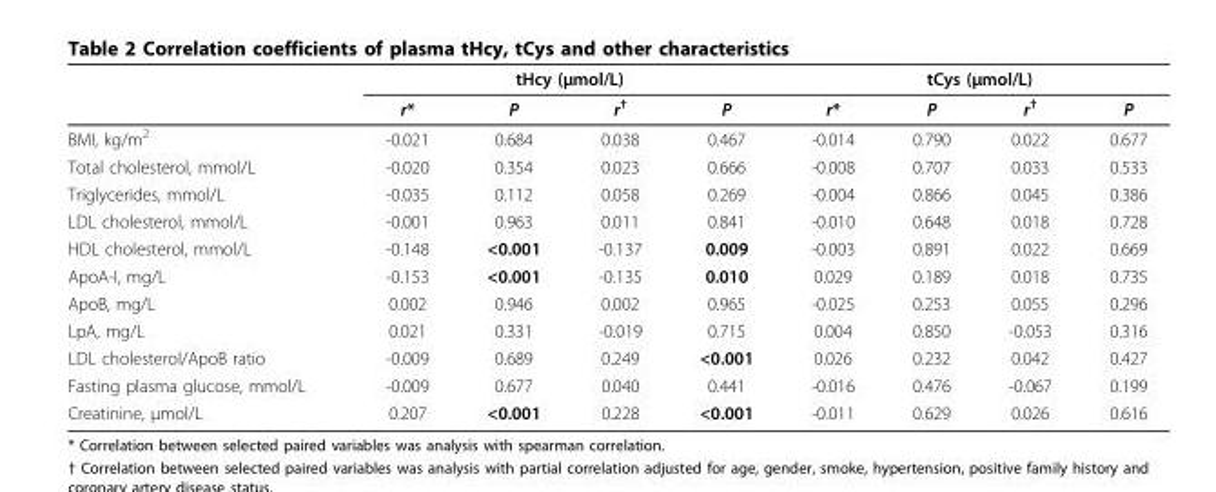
<table><thead><tr><td rowspan="2"></td><td colspan="4">tHcy (μmol/L)</td><td colspan="4">tCys (μmol/L)</td></tr><tr><td>r*</td><td>P</td><td>r<sup>†</sup></td><td>P</td><td>r*</td><td>P</td><td>r<sup>†</sup></td><td>P</td></tr></thead><tbody><tr><td>BMI, kg/m<sup>2</sup></td><td>-0.021</td><td>0.684</td><td>0.038</td><td>0.467</td><td>-0.014</td><td>0.790</td><td>0.022</td><td>0.677</td></tr><tr><td>Total cholesterol, mmol/L</td><td>-0.020</td><td>0.354</td><td>0.023</td><td>0.666</td><td>-0.008</td><td>0.707</td><td>0.033</td><td>0.533</td></tr><tr><td>Triglycerides, mmol/L</td><td>-0.035</td><td>0.112</td><td>0.058</td><td>0.269</td><td>-0.004</td><td>0.866</td><td>0.045</td><td>0.386</td></tr><tr><td>LDL cholesterol, mmol/L</td><td>-0.001</td><td>0.963</td><td>0.011</td><td>0.841</td><td>-0.010</td><td>0.648</td><td>0.018</td><td>0.728</td></tr><tr><td>HDL cholesterol, mmol/L</td><td>-0.148</td><td>&lt;0.001</td><td>-0.137</td><td>0.009</td><td>-0.003</td><td>0.891</td><td>0.022</td><td>0.669</td></tr><tr><td>ApoA-I, mg/L</td><td>-0.153</td><td>&lt;0.001</td><td>-0.135</td><td>0.010</td><td>0.029</td><td>0.189</td><td>0.018</td><td>0.735</td></tr><tr><td>ApoB, mg/L</td><td>0.002</td><td>0.946</td><td>0.002</td><td>0.965</td><td>-0.025</td><td>0.253</td><td>0.055</td><td>0.296</td></tr><tr><td>LpA, mg/L</td><td>0.021</td><td>0.331</td><td>-0.019</td><td>0.715</td><td>0.004</td><td>0.850</td><td>-0.053</td><td>0.316</td></tr><tr><td>LDL cholesterol/ApoB ratio</td><td>-0.009</td><td>0.689</td><td>0.249</td><td>&lt;0.001</td><td>0.026</td><td>0.232</td><td>0.042</td><td>0.427</td></tr><tr><td>Fasting plasma glucose, mmol/L</td><td>-0.009</td><td>0.677</td><td>0.040</td><td>0.441</td><td>-0.016</td><td>0.476</td><td>-0.067</td><td>0.199</td></tr><tr><td>Creatinine, μmol/L</td><td>0.207</td><td>&lt;0.001</td><td>0.228</td><td>&lt;0.001</td><td>-0.011</td><td>0.629</td><td>0.026</td><td>0.616</td></tr></tbody></table>